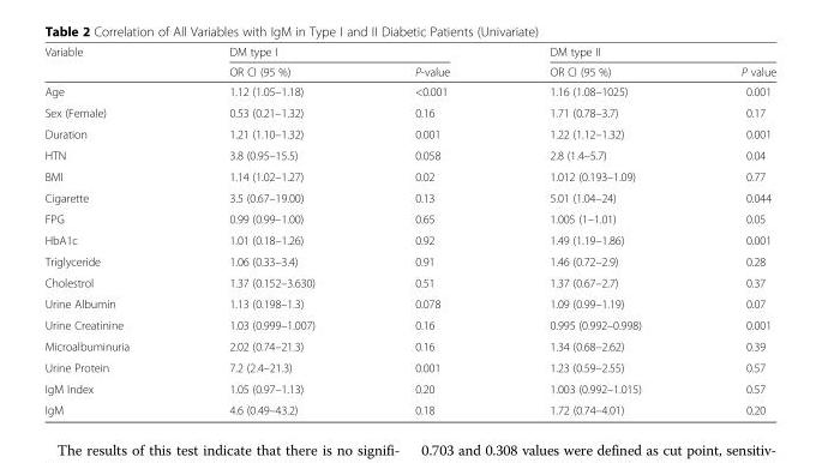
<table><thead><tr><td rowspan="2">Variable</td><td colspan="2">DM type I</td><td colspan="2">DM type II</td></tr><tr><td>OR CI (95 %)</td><td>P-value</td><td>OR CI (95 %)</td><td>P value</td></tr></thead><tbody><tr><td>Age</td><td>1.12 (1.05–1.18)</td><td>&lt;0.001</td><td>1.16 (1.08–1025)</td><td>0.001</td></tr><tr><td>Sex (Female)</td><td>0.53 (0.21–1.32)</td><td>0.16</td><td>1.71 (0.78–3.7)</td><td>0.17</td></tr><tr><td>Duration</td><td>1.21 (1.10–1.32)</td><td>0.001</td><td>1.22 (1.12–1.32)</td><td>0.001</td></tr><tr><td>HTN</td><td>3.8 (0.95–15.5)</td><td>0.058</td><td>2.8 (1.4–5.7)</td><td>0.04</td></tr><tr><td>BMI</td><td>1.14 (1.02–1.27)</td><td>0.02</td><td>1.012 (0.193–1.09)</td><td>0.77</td></tr><tr><td>Cigarette</td><td>3.5 (0.67–19.00)</td><td>0.13</td><td>5.01 (1.04–24)</td><td>0.044</td></tr><tr><td>FPG</td><td>0.99 (0.99–1.00)</td><td>0.65</td><td>1.005 (1–1.01)</td><td>0.05</td></tr><tr><td>HbA1c</td><td>1.01 (0.18–1.26)</td><td>0.92</td><td>1.49 (1.19–1.86)</td><td>0.001</td></tr><tr><td>Triglyceride</td><td>1.06 (0.33–3.4)</td><td>0.91</td><td>1.46 (0.72–2.9)</td><td>0.28</td></tr><tr><td>Cholestrol</td><td>1.37 (0.152–3.630)</td><td>0.51</td><td>1.37 (0.67–2.7)</td><td>0.37</td></tr><tr><td>Urine Albumin</td><td>1.13 (0.198–1.3)</td><td>0.078</td><td>1.09 (0.99–1.19)</td><td>0.07</td></tr><tr><td>Urine Creatinine</td><td>1.03 (0.999–1.007)</td><td>0.16</td><td>0.995 (0.992–0.998)</td><td>0.001</td></tr><tr><td>Microalbuminuria</td><td>2.02 (0.74–21.3)</td><td>0.16</td><td>1.34 (0.68–2.62)</td><td>0.39</td></tr><tr><td>Urine Protein</td><td>7.2 (2.4–21.3)</td><td>0.001</td><td>1.23 (0.59–2.55)</td><td>0.57</td></tr><tr><td>IgM Index</td><td>1.05 (0.97–1.13)</td><td>0.20</td><td>1.003 (0.992–1.015)</td><td>0.57</td></tr><tr><td>IgM</td><td>4.6 (0.49–43.2)</td><td>0.18</td><td>1.72 (0.74–4.01)</td><td>0.20</td></tr></tbody></table>